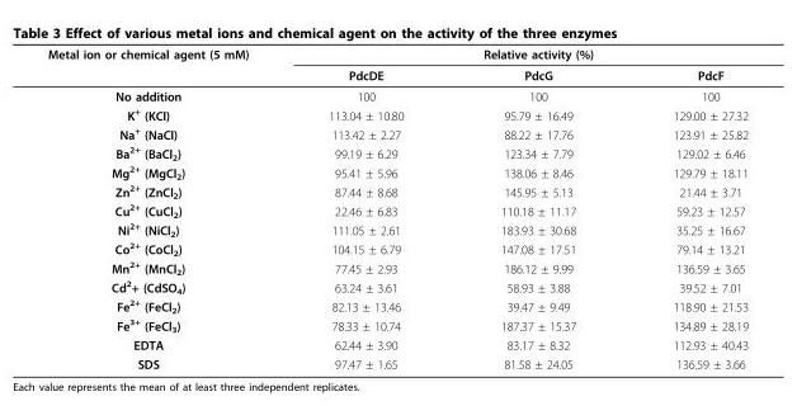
<table><thead><tr><td rowspan="2">Metal ion or chemical agent (5 mM)</td><td rowspan="2">PdcDE</td><td rowspan="2">Relative activity (%) PdcG</td><td rowspan="2">PdcF</td></tr><tr></tr></thead><tbody><tr><td>No addition</td><td>100</td><td>100</td><td>100</td></tr><tr><td>K<sup>+</sup> (KCl)</td><td>113.04 ± 10.80</td><td>95.79 ± 16.49</td><td>129.00 ± 27.32</td></tr><tr><td>Na<sup>+</sup> (NaCl)</td><td>113.42 ± 2.27</td><td>88.22 ± 17.76</td><td>123.91 ± 25.82</td></tr><tr><td>Ba<sup>2+</sup> (BaCl<sub>2</sub>)</td><td>99.19 ± 6.29</td><td>123.34 ± 7.79</td><td>129.02 ± 6.46</td></tr><tr><td>Mg<sup>2+</sup> (MgCl<sub>2</sub>)</td><td>95.41 ± 5.96</td><td>138.06 ± 8.46</td><td>129.79 ± 18.11</td></tr><tr><td>Zn<sup>2+</sup> (ZnCl<sub>2</sub>)</td><td>87.44 ± 8.68</td><td>145.95 ± 5.13</td><td>21.44 ± 3.71</td></tr><tr><td>Cu<sup>2+</sup> (CuCl<sub>2</sub>)</td><td>22.46 ± 6.83</td><td>110.18 ± 11.17</td><td>59.23 ± 12.57</td></tr><tr><td>Ni<sup>2+</sup> (NiCl<sub>2</sub>)</td><td>111.05 ± 2.61</td><td>183.93 ± 30.68</td><td>35.25 ± 16.67</td></tr><tr><td>Co<sup>2+</sup> (CoCl<sub>2</sub>)</td><td>104.15 ± 6.79</td><td>147.08 ± 17.51</td><td>79.14 ± 13.21</td></tr><tr><td>Mn<sup>2+</sup> (MnCl<sub>2</sub>)</td><td>77.45 ± 2.93</td><td>186.12 ± 9.99</td><td>136.59 ± 3.65</td></tr><tr><td>Cd<sup>2</sup>+ (CdSO<sub>4</sub>)</td><td>63.24 ± 3.61</td><td>58.93 ± 3.88</td><td>39.52 ± 7.01</td></tr><tr><td>Fe<sup>2+</sup> (FeCl<sub>2</sub>)</td><td>82.13 ± 13.46</td><td>39.47 ± 9.49</td><td>118.90 ± 21.53</td></tr><tr><td>Fe<sup>3+</sup> (FeCl<sub>3</sub>)</td><td>78.33 ± 10.74</td><td>187.37 ± 15.37</td><td>134.89 ± 28.19</td></tr><tr><td>EDTA</td><td>62.44 ± 3.90</td><td>83.17 ± 8.32</td><td>112.93 ± 40.43</td></tr><tr><td>SDS</td><td>97.47 ± 1.65</td><td>81.58 ± 24.05</td><td>136.59 ± 3.66</td></tr></tbody></table>